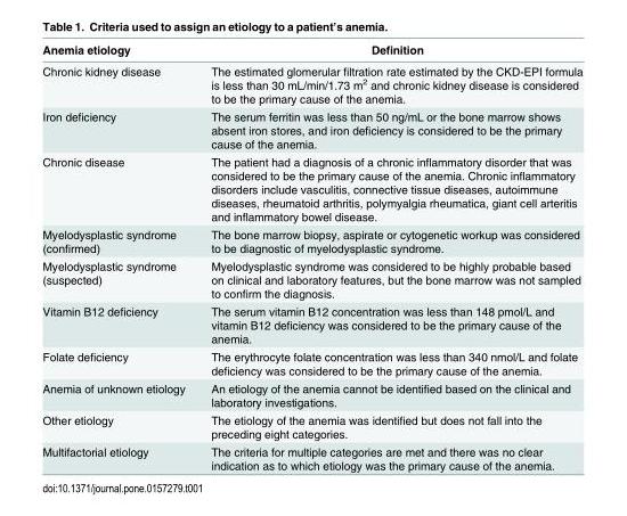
<table><thead><tr><td>Anemia etiology</td><td>Definition</td></tr></thead><tbody><tr><td>Chronic kidney disease</td><td>The estimated glomerular filtration rate estimated by the CKD-EPI formula is less than 30 mL/min/1.73 m<sup>2</sup> and chronic kidney disease is considered to be the primary cause of the anemia.</td></tr><tr><td>Iron deficiency</td><td>The serum ferritin was less than 50 ng/mL or the bone marrow shows absent iron stores, and iron deficiency is considered to be the primary cause of the anemia.</td></tr><tr><td>Chronic disease</td><td>The patient had a diagnosis of a chronic inflammatory disorder that was considered to be the primary cause of the anemia. Chronic inflammatory disorders include vasculitis, connective tissue diseases, autoimmune diseases, rheumatoid arthritis, polymyalgia rheumatica, giant cell arteritis and inflammatory bowel disease.</td></tr><tr><td>Myelodysplastic syndrome (confirmed)</td><td>The bone marrow biopsy, aspirate or cytogenetic workup was considered to be diagnostic of myelodysplastic syndrome.</td></tr><tr><td>Myelodysplastic syndrome (suspected)</td><td>Myelodysplastic syndrome was considered to be highly probable based on clinical and laboratory features, but the bone marrow was not sampled to confirm the diagnosis.</td></tr><tr><td>Vitamin B12 deficiency</td><td>The serum vitamin B12 concentration was less than 148 pmol/L and vitamin B12 deficiency was considered to be the primary cause of the anemia.</td></tr><tr><td>Folate deficiency</td><td>The erythrocyte folate concentration was less than 340 nmol/L and folate deficiency was considered to be the primary cause of the anemia.</td></tr><tr><td>Anemia of unknown etiology</td><td>An etiology of the anemia cannot be identified based on the clinical and laboratory investigations.</td></tr><tr><td>Other etiology</td><td>The etiology of the anemia was identified but does not fall into the preceding eight categories.</td></tr><tr><td>Multifactorial etiology</td><td>The criteria for multiple categories are met and there was no clear indication as to which etiology was the primary cause of the anemia.</td></tr></tbody></table>